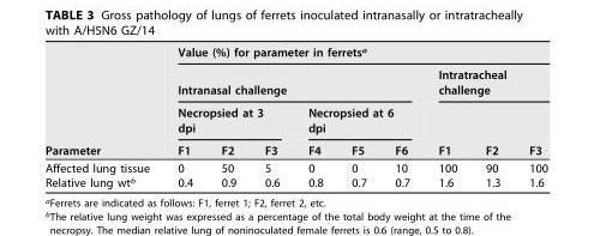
<table><thead><tr><td rowspan="4">Parameter</td><td colspan="9">Value (%) for parameter in ferrets<sup>a</sup></td></tr><tr><td colspan="6">Intranasal challenge</td><td colspan="3">Intratracheal challenge</td></tr><tr><td colspan="3">Necropsied at 3 dpi</td><td colspan="3">Necropsied at 6 dpi</td><td rowspan="2">F1</td><td rowspan="2">F2</td><td rowspan="2">F3</td></tr><tr><td>F1</td><td>F2</td><td>F3</td><td>F4</td><td>F5</td><td>F6</td></tr></thead><tbody><tr><td>Affected lung tissue</td><td>0</td><td>50</td><td>5</td><td>0</td><td>0</td><td>10</td><td>100</td><td>90</td><td>100</td></tr><tr><td>Relative lung wt<sup>b</sup></td><td>0.4</td><td>0.9</td><td>0.6</td><td>0.8</td><td>0.7</td><td>0.7</td><td>1.6</td><td>1.3</td><td>1.6</td></tr></tbody></table>